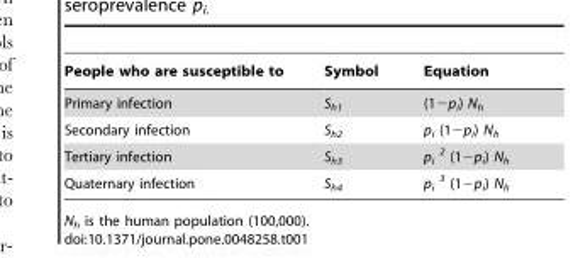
<table><thead><tr><td>People who are susceptible to</td><td>Symbol</td><td>Equation</td></tr></thead><tbody><tr><td>Primary infection</td><td>S<sub>h1</sub></td><td>(1−p<sub>i</sub>) N<sub>h</sub></td></tr><tr><td>Secondary infection</td><td>S<sub>h2</sub></td><td>p<sub>i</sub> (1−p<sub>i</sub>) N<sub>h</sub></td></tr><tr><td>Tertiary infection</td><td>S<sub>h3</sub></td><td>p<sub>i</sub> <sup>2</sup> (1−p<sub>i</sub>) N<sub>h</sub></td></tr><tr><td>Quaternary infection</td><td>S<sub>h4</sub></td><td>p<sub>i</sub> <sup>3</sup> (1−p<sub>i</sub>) N<sub>h</sub></td></tr></tbody></table>